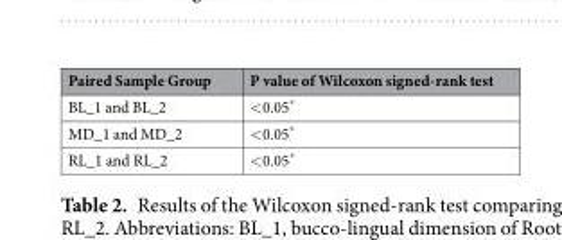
<table><thead><tr><td>Paired Sample Group</td><td>P value of Wilcoxon signed-rank test</td></tr></thead><tbody><tr><td>BL_1 and BL_2</td><td>&lt;0.05*</td></tr><tr><td>MD_1 and MD_2</td><td>&lt;0.05*</td></tr><tr><td>RL_1 and RL_2</td><td>&lt;0.05*</td></tr></tbody></table>